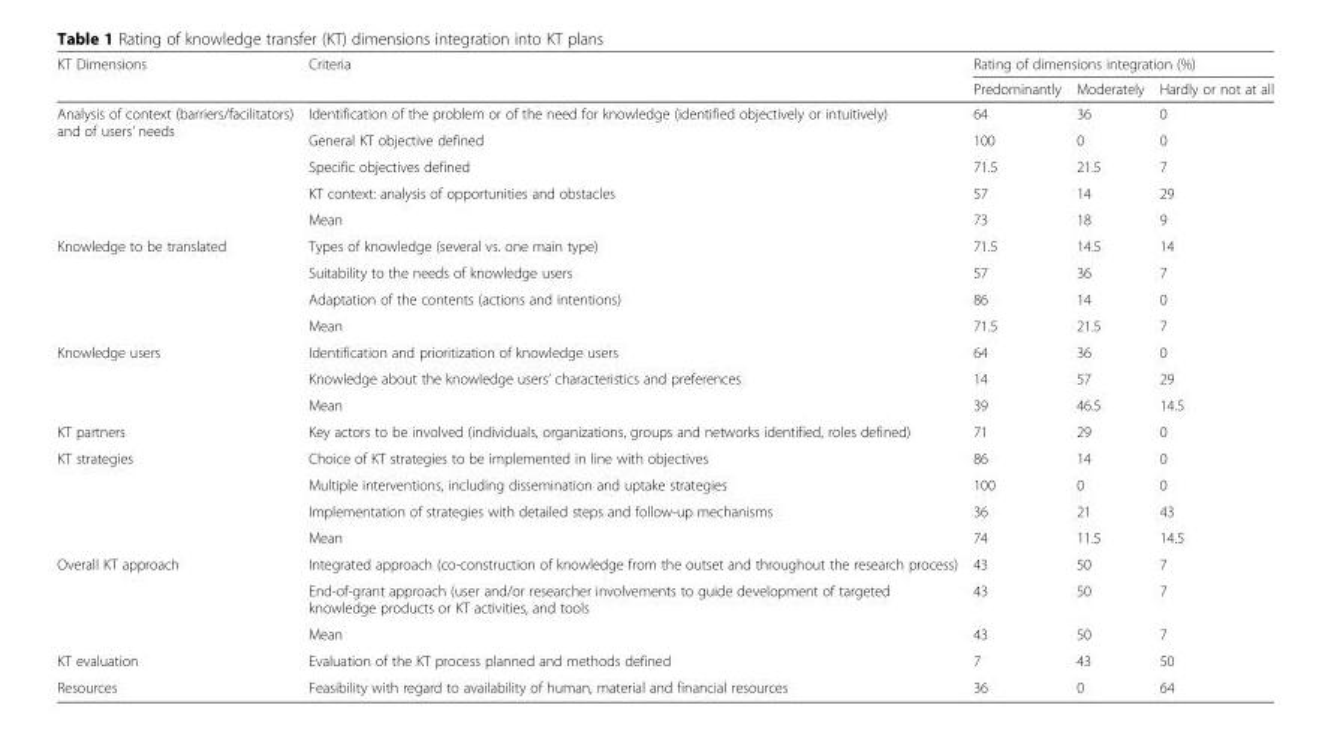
<table><thead><tr><td rowspan="2">KT Dimensions</td><td rowspan="2">Criteria</td><td colspan="3">Rating of dimensions integration (%)</td></tr><tr><td>Predominantly</td><td>Moderately</td><td>Hardly or not at all</td></tr></thead><tbody><tr><td rowspan="5">Analysis of context (barriers/facilitators) and of users’ needs</td><td>Identification of the problem or of the need for knowledge (identified objectively or intuitively)</td><td>64</td><td>36</td><td>0</td></tr><tr><td>General KT objective defined</td><td>100</td><td>0</td><td>0</td></tr><tr><td>Specific objectives defined</td><td>71.5</td><td>21.5</td><td>7</td></tr><tr><td>KT context: analysis of opportunities and obstacles</td><td>57</td><td>14</td><td>29</td></tr><tr><td>Mean</td><td>73</td><td>18</td><td>9</td></tr><tr><td rowspan="4">Knowledge to be translated</td><td>Types of knowledge (several vs. one main type)</td><td>71.5</td><td>14.5</td><td>14</td></tr><tr><td>Suitability to the needs of knowledge users</td><td>57</td><td>36</td><td>7</td></tr><tr><td>Adaptation of the contents (actions and intentions)</td><td>86</td><td>14</td><td>0</td></tr><tr><td>Mean</td><td>71.5</td><td>21.5</td><td>7</td></tr><tr><td rowspan="3">Knowledge users</td><td>Identification and prioritization of knowledge users</td><td>64</td><td>36</td><td>0</td></tr><tr><td>Knowledge about the knowledge users’ characteristics and preferences</td><td>14</td><td>57</td><td>29</td></tr><tr><td>Mean</td><td>39</td><td>46.5</td><td>14.5</td></tr><tr><td>KT partners</td><td>Key actors to be involved (individuals, organizations, groups and networks identified, roles defined)</td><td>71</td><td>29</td><td>0</td></tr><tr><td rowspan="4">KT strategies</td><td>Choice of KT strategies to be implemented in line with objectives</td><td>86</td><td>14</td><td>0</td></tr><tr><td>Multiple interventions, including dissemination and uptake strategies</td><td>100</td><td>0</td><td>0</td></tr><tr><td>Implementation of strategies with detailed steps and follow-up mechanisms</td><td>36</td><td>21</td><td>43</td></tr><tr><td>Mean</td><td>74</td><td>11.5</td><td>14.5</td></tr><tr><td rowspan="3">Overall KT approach</td><td>Integrated approach (co-construction of knowledge from the outset and throughout the research process)</td><td>43</td><td>50</td><td>7</td></tr><tr><td>End-of-grant approach (user and/or researcher involvements to guide development of targeted knowledge products or KT activities, and tools</td><td>43</td><td>50</td><td>7</td></tr><tr><td>Mean</td><td>43</td><td>50</td><td>7</td></tr><tr><td>KT evaluation</td><td>Evaluation of the KT process planned and methods defined</td><td>7</td><td>43</td><td>50</td></tr><tr><td>Resources</td><td>Feasibility with regard to availability of human, material and financial resources</td><td>36</td><td>0</td><td>64</td></tr></tbody></table>